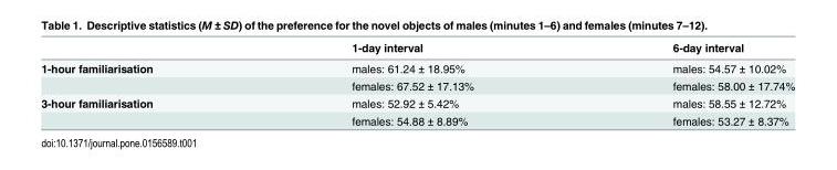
<table><thead><tr><td></td><td>1-day interval</td><td>6-day interval</td></tr></thead><tbody><tr><td rowspan="2">1-hour familiarisation</td><td>males: 61.24 ± 18.95%</td><td>males: 54.57 ± 10.02%</td></tr><tr><td>females: 67.52 ± 17.13%</td><td>females: 58.00 ± 17.74%</td></tr><tr><td rowspan="2">3-hour familiarisation</td><td>males: 52.92 ± 5.42%</td><td>males: 58.55 ± 12.72%</td></tr><tr><td>females: 54.88 ± 8.89%</td><td>females: 53.27 ± 8.37%</td></tr></tbody></table>